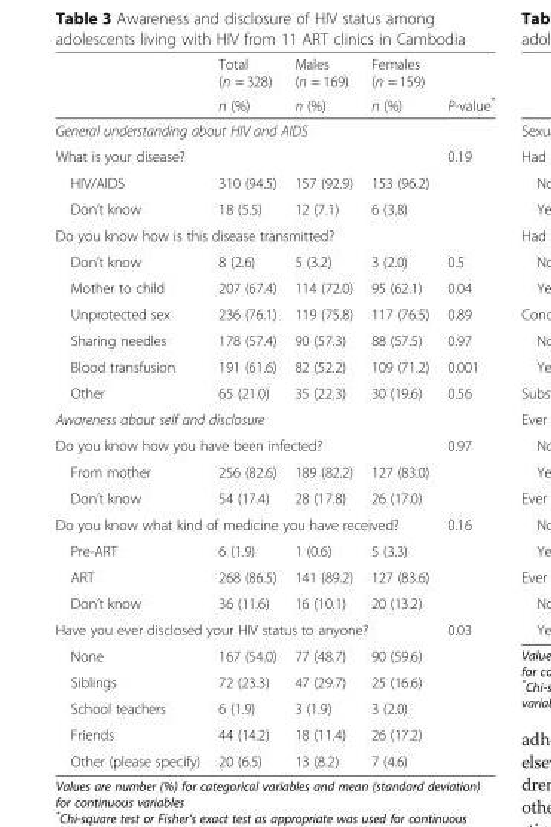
<table><thead><tr><td rowspan="2"></td><td rowspan="2">Total (n = 328) n (%)</td><td rowspan="2">Males (n = 169) n (%)</td><td rowspan="2">Females (n = 159) n (%)</td><td rowspan="2">P-value*</td></tr><tr></tr></thead><tbody><tr><td colspan="5">General understanding about HIV and AIDS</td></tr><tr><td colspan="4">What is your disease?</td><td>0.19</td></tr><tr><td>HIV/AIDS</td><td>310 (94.5)</td><td>157 (92.9)</td><td>153 (96.2)</td><td></td></tr><tr><td>Don’t know</td><td>18 (5.5)</td><td>12 (7.1)</td><td>6 (3.8)</td><td></td></tr><tr><td colspan="5">Do you know how is this disease transmitted?</td></tr><tr><td>Don’t know</td><td>8 (2.6)</td><td>5 (3.2)</td><td>3 (2.0)</td><td>0.5</td></tr><tr><td>Mother to child</td><td>207 (67.4)</td><td>114 (72.0)</td><td>95 (62.1)</td><td>0.04</td></tr><tr><td>Unprotected sex</td><td>236 (76.1)</td><td>119 (75.8)</td><td>117 (76.5)</td><td>0.89</td></tr><tr><td>Sharing needles</td><td>178 (57.4)</td><td>90 (57.3)</td><td>88 (57.5)</td><td>0.97</td></tr><tr><td>Blood transfusion</td><td>191 (61.6)</td><td>82 (52.2)</td><td>109 (71.2)</td><td>0.001</td></tr><tr><td>Other</td><td>65 (21.0)</td><td>35 (22.3)</td><td>30 (19.6)</td><td>0.56</td></tr><tr><td colspan="5">Awareness about self and disclosure</td></tr><tr><td colspan="4">Do you know how you have been infected?</td><td>0.97</td></tr><tr><td>From mother</td><td>256 (82.6)</td><td>189 (82.2)</td><td>127 (83.0)</td><td></td></tr><tr><td>Don’t know</td><td>54 (17.4)</td><td>28 (17.8)</td><td>26 (17.0)</td><td></td></tr><tr><td colspan="4">Do you know what kind of medicine you have received?</td><td>0.16</td></tr><tr><td>Pre-ART</td><td>6 (1.9)</td><td>1 (0.6)</td><td>5 (3.3)</td><td></td></tr><tr><td>ART</td><td>268 (86.5)</td><td>141 (89.2)</td><td>127 (83.6)</td><td></td></tr><tr><td>Don’t know</td><td>36 (11.6)</td><td>16 (10.1)</td><td>20 (13.2)</td><td></td></tr><tr><td colspan="4">Have you ever disclosed your HIV status to anyone?</td><td>0.03</td></tr><tr><td>None</td><td>167 (54.0)</td><td>77 (48.7)</td><td>90 (59.6)</td><td></td></tr><tr><td>Siblings</td><td>72 (23.3)</td><td>47 (29.7)</td><td>25 (16.6)</td><td></td></tr><tr><td>School teachers</td><td>6 (1.9)</td><td>3 (1.9)</td><td>3 (2.0)</td><td></td></tr><tr><td>Friends</td><td>44 (14.2)</td><td>18 (11.4)</td><td>26 (17.2)</td><td></td></tr><tr><td>Other (please specify)</td><td>20 (6.5)</td><td>13 (8.2)</td><td>7 (4.6)</td><td></td></tr></tbody></table>